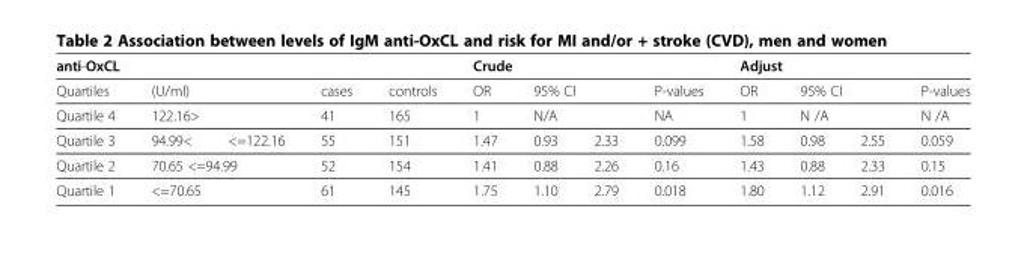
<table><thead><tr><td colspan="3">anti-OxCL</td><td rowspan="4">cases 41 55</td><td rowspan="4">controls 165 151</td><td colspan="4">Crude</td><td colspan="4">Adjust</td></tr><tr><td rowspan="3">Quartiles Quartile 4 Quartile 3</td><td rowspan="2" colspan="2">(U/ml) 122.16&gt;</td><td rowspan="3">OR 1 1.47</td><td rowspan="2" colspan="2">95% CI N/A</td><td rowspan="3">P-values NA 0.099</td><td rowspan="3">OR 1 1.58</td><td rowspan="2" colspan="2">95% CI N /A</td><td rowspan="3">P-values N /A 0.059</td></tr><tr></tr><tr><td>94.99&lt;</td><td>&lt;=122.16</td><td>0.93</td><td>2.33</td><td>0.98</td><td>2.55</td></tr></thead><tbody><tr><td>Quartile 2</td><td colspan="2">70.65 &lt;=94.99</td><td>52</td><td>154</td><td>1.41</td><td>0.88</td><td>2.26</td><td>0.16</td><td>1.43</td><td>0.88</td><td>2.33</td><td>0.15</td></tr><tr><td>Quartile 1</td><td colspan="2">&lt;=70.65</td><td>61</td><td>145</td><td>1.75</td><td>1.10</td><td>2.79</td><td>0.018</td><td>1.80</td><td>1.12</td><td>2.91</td><td>0.016</td></tr></tbody></table>